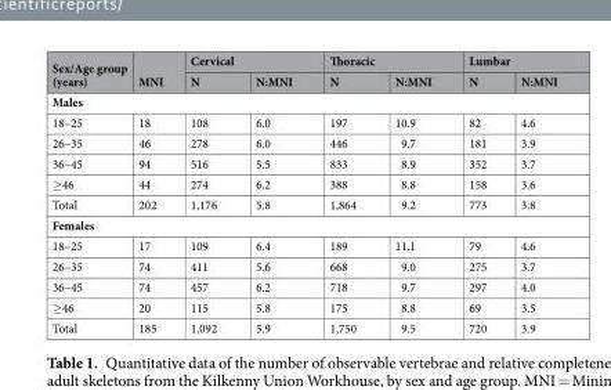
<table><thead><tr><td rowspan="2">Sex/Age group (years)</td><td rowspan="2">MNI</td><td colspan="2">Cervical</td><td colspan="2">Thoracic</td><td colspan="2">Lumbar</td></tr><tr><td>N</td><td>N:MNI</td><td>N</td><td>N:MNI</td><td>N</td><td>N:MNI</td></tr></thead><tbody><tr><td colspan="8">Males</td></tr><tr><td>18–25</td><td>18</td><td>108</td><td>6.0</td><td>197</td><td>10.9</td><td>82</td><td>4.6</td></tr><tr><td>26–35</td><td>46</td><td>278</td><td>6.0</td><td>446</td><td>9.7</td><td>181</td><td>3.9</td></tr><tr><td>36–45</td><td>94</td><td>516</td><td>5.5</td><td>833</td><td>8.9</td><td>352</td><td>3.7</td></tr><tr><td>≥46</td><td>44</td><td>274</td><td>6.2</td><td>388</td><td>8.8</td><td>158</td><td>3.6</td></tr><tr><td>Total</td><td>202</td><td>1,176</td><td>5.8</td><td>1,864</td><td>9.2</td><td>773</td><td>3.8</td></tr><tr><td colspan="8">Females</td></tr><tr><td>18–25</td><td>17</td><td>109</td><td>6.4</td><td>189</td><td>11.1</td><td>79</td><td>4.6</td></tr><tr><td>26–35</td><td>74</td><td>411</td><td>5.6</td><td>668</td><td>9.0</td><td>275</td><td>3.7</td></tr><tr><td>36–45</td><td>74</td><td>457</td><td>6.2</td><td>718</td><td>9.7</td><td>297</td><td>4.0</td></tr><tr><td>≥46</td><td>20</td><td>115</td><td>5.8</td><td>175</td><td>8.8</td><td>69</td><td>3.5</td></tr><tr><td>Total</td><td>185</td><td>1,092</td><td>5.9</td><td>1,750</td><td>9.5</td><td>720</td><td>3.9</td></tr></tbody></table>